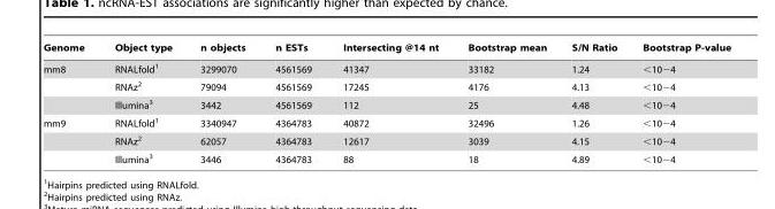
<table><thead><tr><td>Genome</td><td>Object type</td><td>n objects</td><td>n ESTs</td><td>Intersecting @14 nt</td><td>Bootstrap mean</td><td>S/N Ratio</td><td>Bootstrap P-value</td></tr></thead><tbody><tr><td rowspan="3">mm8</td><td>RNALfold<sup>1</sup></td><td>3299070</td><td>4561569</td><td>41347</td><td>33182</td><td>1.24</td><td>&lt;10−4</td></tr><tr><td>RNAz<sup>2</sup></td><td>79094</td><td>4561569</td><td>17245</td><td>4176</td><td>4.13</td><td>&lt;10−4</td></tr><tr><td>Illumina<sup>3</sup></td><td>3442</td><td>4561569</td><td>112</td><td>25</td><td>4.48</td><td>&lt;10−4</td></tr><tr><td rowspan="3">mm9</td><td>RNALfold<sup>1</sup></td><td>3340947</td><td>4364783</td><td>40872</td><td>32496</td><td>1.26</td><td>&lt;10−4</td></tr><tr><td>RNAz<sup>2</sup></td><td>62057</td><td>4364783</td><td>12617</td><td>3039</td><td>4.15</td><td>&lt;10−4</td></tr><tr><td>Illumina<sup>3</sup></td><td>3446</td><td>4364783</td><td>88</td><td>18</td><td>4.89</td><td>&lt;10−4</td></tr></tbody></table>